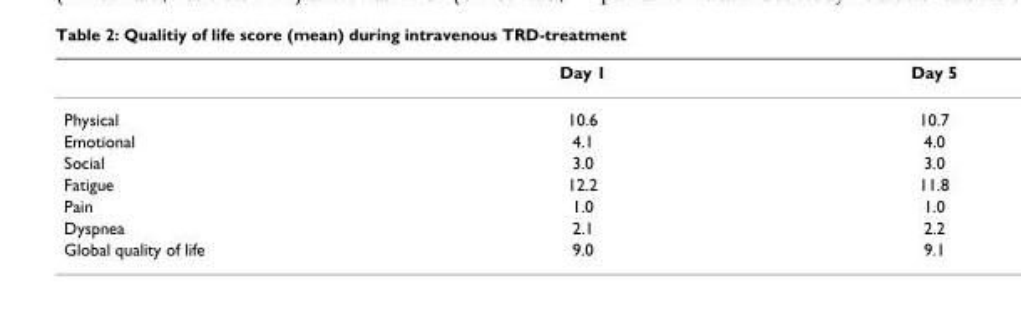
<table><thead><tr><td></td><td>Day 1</td><td>Day 5</td></tr></thead><tbody><tr><td>Physical</td><td>10.6</td><td>10.7</td></tr><tr><td>Emotional</td><td>4.1</td><td>4.0</td></tr><tr><td>Social</td><td>3.0</td><td>3.0</td></tr><tr><td>Fatigue</td><td>12.2</td><td>11.8</td></tr><tr><td>Pain</td><td>1.0</td><td>1.0</td></tr><tr><td>Dyspnea</td><td>2.1</td><td>2.2</td></tr><tr><td>Global quality of life</td><td>9.0</td><td>9.1</td></tr></tbody></table>